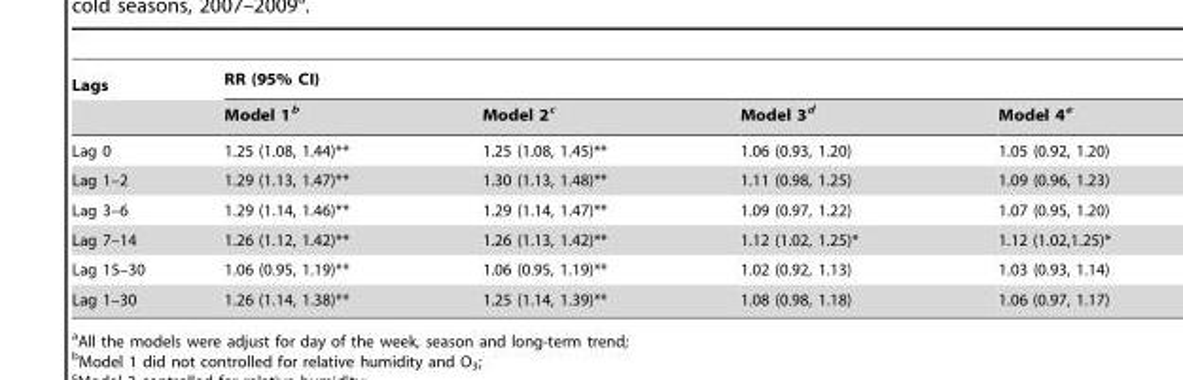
<table><thead><tr><td rowspan="2">Lags</td><td colspan="4">RR (95% CI)</td></tr><tr><td>Model 1<sup>b</sup></td><td>Model 2<sup>c</sup></td><td>Model 3<sup>d</sup></td><td>Model 4<sup>e</sup></td></tr></thead><tbody><tr><td>Lag 0</td><td>1.25 (1.08, 1.44)**</td><td>1.25 (1.08, 1.45)**</td><td>1.06 (0.93, 1.20)</td><td>1.05 (0.92, 1.20)</td></tr><tr><td>Lag 1–2</td><td>1.29 (1.13, 1.47)**</td><td>1.30 (1.13, 1.48)**</td><td>1.11 (0.98, 1.25)</td><td>1.09 (0.96, 1.23)</td></tr><tr><td>Lag 3–6</td><td>1.29 (1.14, 1.46)**</td><td>1.29 (1.14, 1.47)**</td><td>1.09 (0.97, 1.22)</td><td>1.07 (0.95, 1.20)</td></tr><tr><td>Lag 7–14</td><td>1.26 (1.12, 1.42)**</td><td>1.26 (1.13, 1.42)**</td><td>1.12 (1.02, 1.25)*</td><td>1.12 (1.02,1.25)*</td></tr><tr><td>Lag 15–30</td><td>1.06 (0.95, 1.19)**</td><td>1.06 (0.95, 1.19)**</td><td>1.02 (0.92, 1.13)</td><td>1.03 (0.93, 1.14)</td></tr><tr><td>Lag 1–30</td><td>1.26 (1.14, 1.38)**</td><td>1.25 (1.14, 1.39)**</td><td>1.08 (0.98, 1.18)</td><td>1.06 (0.97, 1.17)</td></tr></tbody></table>